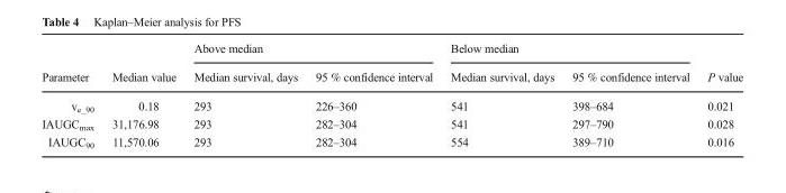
<table><thead><tr><td rowspan="2">Parameter</td><td rowspan="2">Median value</td><td colspan="2">Above median</td><td colspan="2">Below median</td><td rowspan="2">P value</td></tr><tr><td>Median survival, days</td><td>95 % confidence interval</td><td>Median survival, days</td><td>95 % confidence interval</td></tr></thead><tbody><tr><td>v<sub>e_90</sub></td><td>0.18</td><td>293</td><td>226–360</td><td>541</td><td>398–684</td><td>0.021</td></tr><tr><td>IAUGC<sub>max</sub></td><td>31,176.98</td><td>293</td><td>282–304</td><td>541</td><td>297–790</td><td>0.028</td></tr><tr><td>IAUGC<sub>90</sub></td><td>11,570.06</td><td>293</td><td>282–304</td><td>554</td><td>389–710</td><td>0.016</td></tr></tbody></table>